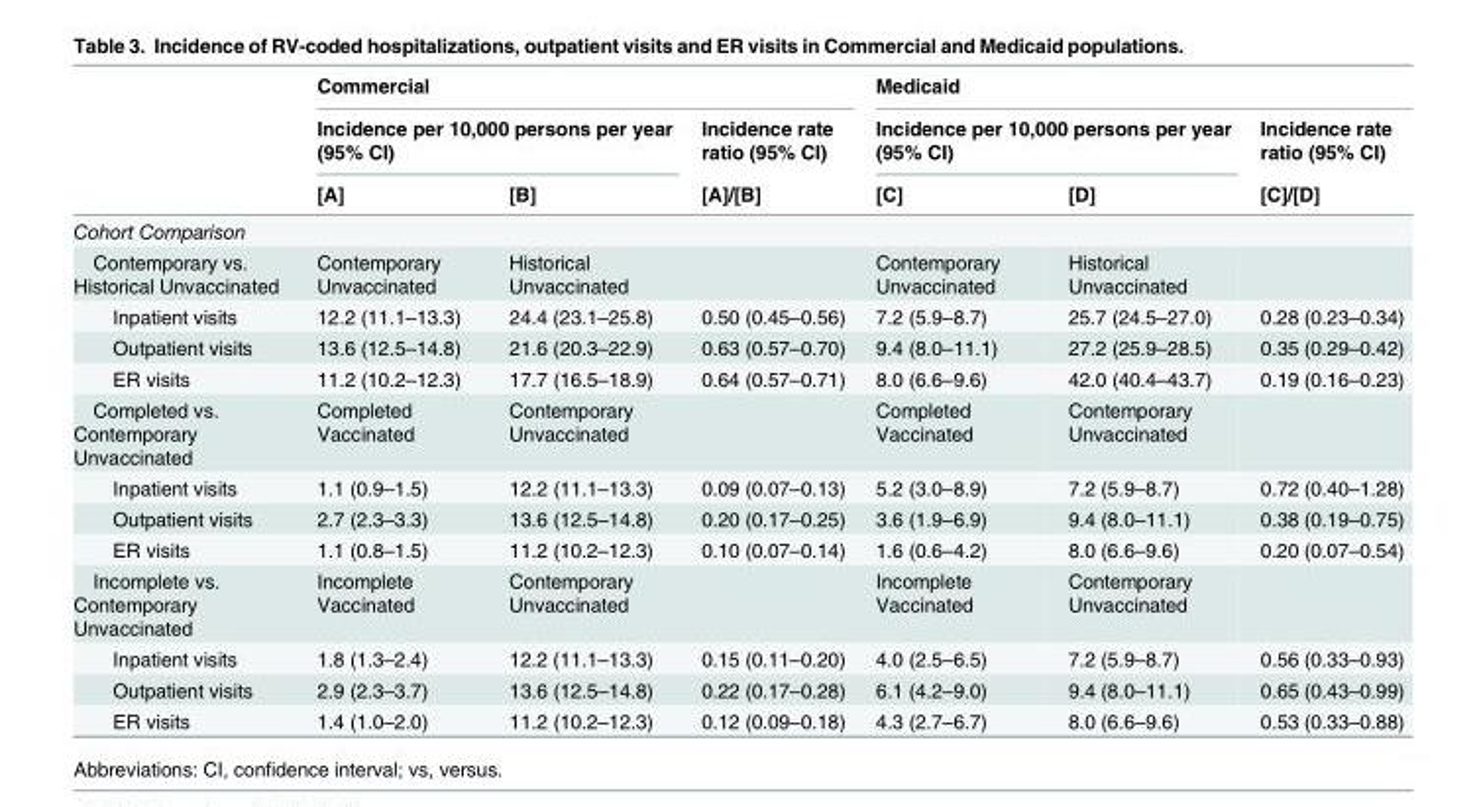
<table><thead><tr><td rowspan="3"></td><td colspan="3">Commercial</td><td colspan="3">Medicaid</td></tr><tr><td colspan="2">Incidence per 10,000 persons per year (95% CI)</td><td rowspan="2">Incidence rate ratio (95% CI) [A]/[B]</td><td colspan="2">Incidence per 10,000 persons per year (95% CI)</td><td rowspan="2">Incidence rate ratio (95% CI) [C]/[D]</td></tr><tr><td>[A]</td><td>[B]</td><td>[C]</td><td>[D]</td></tr></thead><tbody><tr><td colspan="7">Cohort Comparison</td></tr><tr><td>Contemporary vs. Historical Unvaccinated</td><td>Contemporary Unvaccinated</td><td>Historical Unvaccinated</td><td></td><td>Contemporary Unvaccinated</td><td>Historical Unvaccinated</td><td></td></tr><tr><td>Inpatient visits</td><td>12.2 (11.1–13.3)</td><td>24.4 (23.1–25.8)</td><td>0.50 (0.45–0.56)</td><td>7.2 (5.9–8.7)</td><td>25.7 (24.5–27.0)</td><td>0.28 (0.23–0.34)</td></tr><tr><td>Outpatient visits</td><td>13.6 (12.5–14.8)</td><td>21.6 (20.3–22.9)</td><td>0.63 (0.57–0.70)</td><td>9.4 (8.0–11.1)</td><td>27.2 (25.9–28.5)</td><td>0.35 (0.29–0.42)</td></tr><tr><td>ER visits</td><td>11.2 (10.2–12.3)</td><td>17.7 (16.5–18.9)</td><td>0.64 (0.57–0.71)</td><td>8.0 (6.6–9.6)</td><td>42.0 (40.4–43.7)</td><td>0.19 (0.16–0.23)</td></tr><tr><td>Completed vs. Contemporary Unvaccinated</td><td>Completed Vaccinated</td><td>Contemporary Unvaccinated</td><td></td><td>Completed Vaccinated</td><td>Contemporary Unvaccinated</td><td></td></tr><tr><td>Inpatient visits</td><td>1.1 (0.9–1.5)</td><td>12.2 (11.1–13.3)</td><td>0.09 (0.07–0.13)</td><td>5.2 (3.0–8.9)</td><td>7.2 (5.9–8.7)</td><td>0.72 (0.40–1.28)</td></tr><tr><td>Outpatient visits</td><td>2.7 (2.3–3.3)</td><td>13.6 (12.5–14.8)</td><td>0.20 (0.17–0.25)</td><td>3.6 (1.9–6.9)</td><td>9.4 (8.0–11.1)</td><td>0.38 (0.19–0.75)</td></tr><tr><td>ER visits</td><td>1.1 (0.8–1.5)</td><td>11.2 (10.2–12.3)</td><td>0.10 (0.07–0.14)</td><td>1.6 (0.6–4.2)</td><td>8.0 (6.6–9.6)</td><td>0.20 (0.07–0.54)</td></tr><tr><td>Incomplete vs. Contemporary Unvaccinated</td><td>Incomplete Vaccinated</td><td>Contemporary Unvaccinated</td><td></td><td>Incomplete Vaccinated</td><td>Contemporary Unvaccinated</td><td></td></tr><tr><td>Inpatient visits</td><td>1.8 (1.3–2.4)</td><td>12.2 (11.1–13.3)</td><td>0.15 (0.11–0.20)</td><td>4.0 (2.5–6.5)</td><td>7.2 (5.9–8.7)</td><td>0.56 (0.33–0.93)</td></tr><tr><td>Outpatient visits</td><td>2.9 (2.3–3.7)</td><td>13.6 (12.5–14.8)</td><td>0.22 (0.17–0.28)</td><td>6.1 (4.2–9.0)</td><td>9.4 (8.0–11.1)</td><td>0.65 (0.43–0.99)</td></tr><tr><td>ER visits</td><td>1.4 (1.0–2.0)</td><td>11.2 (10.2–12.3)</td><td>0.12 (0.09–0.18)</td><td>4.3 (2.7–6.7)</td><td>8.0 (6.6–9.6)</td><td>0.53 (0.33–0.88)</td></tr></tbody></table>